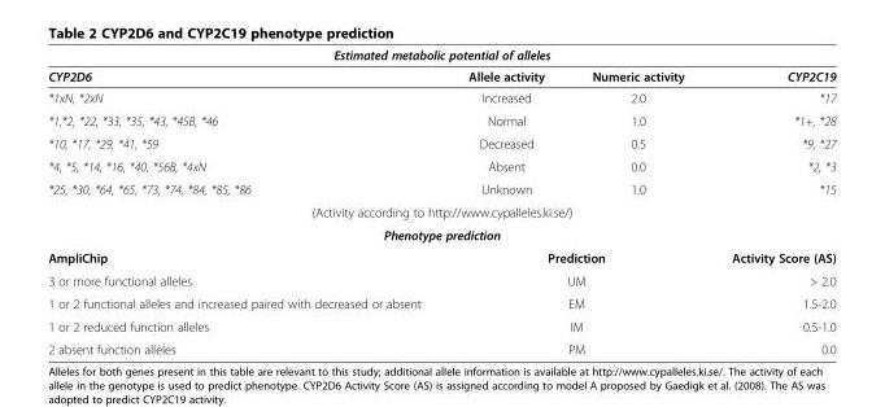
<table><thead><tr><td colspan="4">Estimated metabolic potential of alleles</td></tr><tr><td>CYP2D6</td><td>Allele activity</td><td>Numeric activity</td><td>CYP2C19</td></tr></thead><tbody><tr><td>*1xN, *2xN</td><td>Increased</td><td>2.0</td><td>*17</td></tr><tr><td>*1,*2, *22, *33, *35, *43, *45B, *46</td><td>Normal</td><td>1.0</td><td>*1+, *28</td></tr><tr><td>*10, *17, *29, *41, *59</td><td>Decreased</td><td>0.5</td><td>*9, *27</td></tr><tr><td>*4, *5, *14, *16, *40, *56B, *4xN</td><td>Absent</td><td>0.0</td><td>*2, *3</td></tr><tr><td>*25, *30, *64, *65, *73, *74, *84, *85, *86</td><td>Unknown</td><td>1.0</td><td>*15</td></tr><tr><td colspan="4">(Activity according to http://www.cypalleles.ki.se/)</td></tr><tr><td colspan="4">Phenotype prediction</td></tr><tr><td>AmpliChip</td><td colspan="2">Prediction</td><td>Activity Score (AS)</td></tr><tr><td>3 or more functional alleles</td><td colspan="2">UM</td><td>&gt; 2.0</td></tr><tr><td>1 or 2 functional alleles and increased paired with decreased or absent</td><td colspan="2">EM</td><td>1.5-2.0</td></tr><tr><td>1 or 2 reduced function alleles</td><td colspan="2">IM</td><td>0.5-1.0</td></tr><tr><td>2 absent function alleles</td><td colspan="2">PM</td><td>0.0</td></tr></tbody></table>